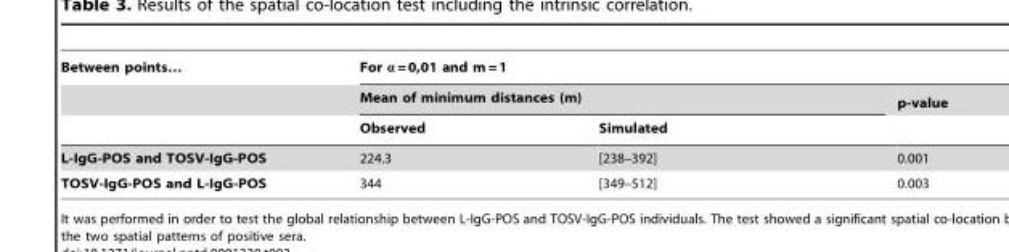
<table><thead><tr><td rowspan="3">Between points…</td><td colspan="3">For α = 0,01 and m = 1</td></tr><tr><td colspan="2">Mean of minimum distances (m)</td><td rowspan="2">p-value</td></tr><tr><td>Observed</td><td>Simulated</td></tr></thead><tbody><tr><td>L-IgG-POS and TOSV-IgG-POS</td><td>224.3</td><td>[238–392]</td><td>0.001</td></tr><tr><td>TOSV-IgG-POS and L-IgG-POS</td><td>344</td><td>[349–512]</td><td>0.003</td></tr></tbody></table>